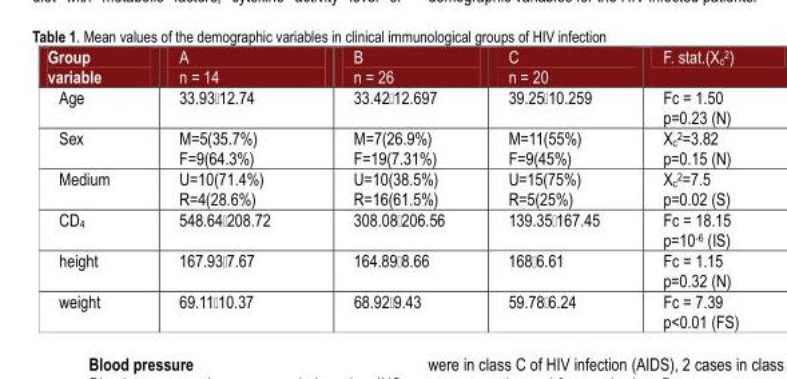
<table><thead><tr><td rowspan="7">Group variable Age Sex Medium CD4 height weight</td><td rowspan="7">A n = 14 33.93±12.74 M=5(35.7%) F=9(64.3%) U=10(71.4%) R=4(28.6%) 548.64±208.72 167.93±7.67 69.11±10.37</td><td rowspan="7">B n = 26 33.42±12.697 M=7(26.9%) F=19(7.31%) U=10(38.5%) R=16(61.5%) 308.08±206.56 164.89±8.66 68.92±9.43</td><td rowspan="7">C n = 20 39.25±10.259 M=11(55%) F=9(45%) U=15(75%) R=5(25%) 139.35±167.45 168±6.61 59.78±6.24</td><td rowspan="7">F. stat.(Xc2) Fc = 1.50 p=0.23 (N) Xc2=3.82 p=0.15 (N) Xc2=7.5 p=0.02 (S) Fc = 18.15 p=10-6 (IS) Fc = 1.15 p=0.32 (N) Fc = 7.39 p&lt;0.01 (FS)</td></tr><tr></tr><tr></tr><tr></tr><tr></tr><tr></tr><tr></tr></thead><tbody></tbody></table>